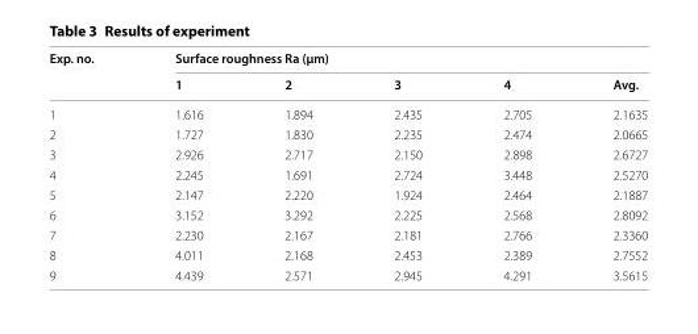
<table><thead><tr><td rowspan="2">Exp. no.</td><td colspan="5">Surface roughness Ra (μm)</td></tr><tr><td>1</td><td>2</td><td>3</td><td>4</td><td>Avg.</td></tr></thead><tbody><tr><td>1</td><td>1.616</td><td>1.894</td><td>2.435</td><td>2.705</td><td>2.1635</td></tr><tr><td>2</td><td>1.727</td><td>1.830</td><td>2.235</td><td>2.474</td><td>2.0665</td></tr><tr><td>3</td><td>2.926</td><td>2.717</td><td>2.150</td><td>2.898</td><td>2.6727</td></tr><tr><td>4</td><td>2.245</td><td>1.691</td><td>2.724</td><td>3.448</td><td>2.5270</td></tr><tr><td>5</td><td>2.147</td><td>2.220</td><td>1.924</td><td>2.464</td><td>2.1887</td></tr><tr><td>6</td><td>3.152</td><td>3.292</td><td>2.225</td><td>2.568</td><td>2.8092</td></tr><tr><td>7</td><td>2.230</td><td>2.167</td><td>2.181</td><td>2.766</td><td>2.3360</td></tr><tr><td>8</td><td>4.011</td><td>2.168</td><td>2.453</td><td>2.389</td><td>2.7552</td></tr><tr><td>9</td><td>4.439</td><td>2.571</td><td>2.945</td><td>4.291</td><td>3.5615</td></tr></tbody></table>